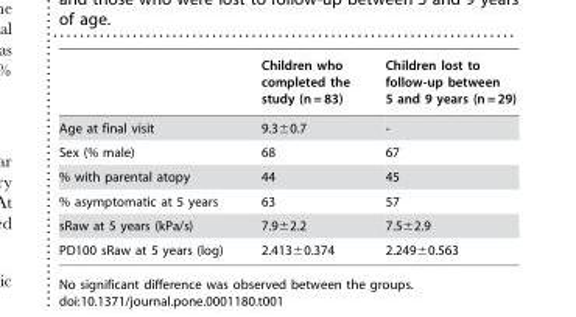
<table><thead><tr><td></td><td>Children who completed the study (n = 83)</td><td>Children lost to follow-up between 5 and 9 years (n = 29)</td></tr></thead><tbody><tr><td>Age at final visit</td><td>9.3±0.7</td><td>-</td></tr><tr><td>Sex (% male)</td><td>68</td><td>67</td></tr><tr><td>% with parental atopy</td><td>44</td><td>45</td></tr><tr><td>% asymptomatic at 5 years</td><td>63</td><td>57</td></tr><tr><td>sRaw at 5 years (kPa/s)</td><td>7.9±2.2</td><td>7.5±2.9</td></tr><tr><td>PD100 sRaw at 5 years (log)</td><td>2.413±0.374</td><td>2.249±0.563</td></tr></tbody></table>